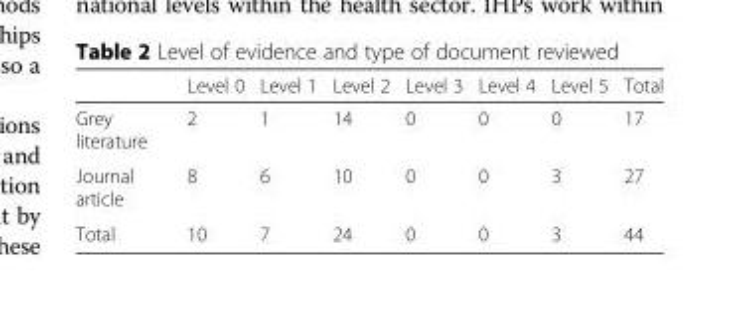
<table><thead><tr><td></td><td>Level 0</td><td>Level 1</td><td>Level 2</td><td>Level 3</td><td>Level 4</td><td>Level 5</td><td>Total</td></tr></thead><tbody><tr><td>Grey literature</td><td>2</td><td>1</td><td>14</td><td>0</td><td>0</td><td>0</td><td>17</td></tr><tr><td>Journal article</td><td>8</td><td>6</td><td>10</td><td>0</td><td>0</td><td>3</td><td>27</td></tr><tr><td>Total</td><td>10</td><td>7</td><td>24</td><td>0</td><td>0</td><td>3</td><td>44</td></tr></tbody></table>